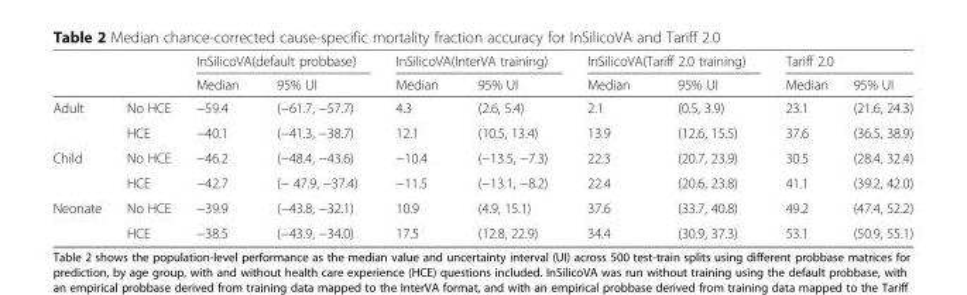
<table><thead><tr><td rowspan="2"></td><td rowspan="2"></td><td colspan="2">InSilicoVA(default probbase)</td><td colspan="2">InSilicoVA(InterVA training)</td><td colspan="2">InSilicoVA(Tariff 2.0 training)</td><td colspan="2">Tariff 2.0</td></tr><tr><td>Median</td><td>95% UI</td><td>Median</td><td>95% UI</td><td>Median</td><td>95% UI</td><td>Median</td><td>95% UI</td></tr></thead><tbody><tr><td rowspan="2">Adult</td><td>No HCE</td><td>−59.4</td><td>(−61.7, −57.7)</td><td>4.3</td><td>(2.6, 5.4)</td><td>2.1</td><td>(0.5, 3.9)</td><td>23.1</td><td>(21.6, 24.3)</td></tr><tr><td>HCE</td><td>−40.1</td><td>(−41.3, −38.7)</td><td>12.1</td><td>(10.5, 13.4)</td><td>13.9</td><td>(12.6, 15.5)</td><td>37.6</td><td>(36.5, 38.9)</td></tr><tr><td rowspan="2">Child</td><td>No HCE</td><td>−46.2</td><td>(−48.4, −43.6)</td><td>−10.4</td><td>(−13.5, −7.3)</td><td>22.3</td><td>(20.7, 23.9)</td><td>30.5</td><td>(28.4, 32.4)</td></tr><tr><td>HCE</td><td>−42.7</td><td>(− 47.9, −37.4)</td><td>−11.5</td><td>(−13.1, −8.2)</td><td>22.4</td><td>(20.6, 23.8)</td><td>41.1</td><td>(39.2, 42.0)</td></tr><tr><td rowspan="2">Neonate</td><td>No HCE</td><td>−39.9</td><td>(−43.8, −32.1)</td><td>10.9</td><td>(4.9, 15.1)</td><td>37.6</td><td>(33.7, 40.8)</td><td>49.2</td><td>(47.4, 52.2)</td></tr><tr><td>HCE</td><td>−38.5</td><td>(−43.9, −34.0)</td><td>17.5</td><td>(12.8, 22.9)</td><td>34.4</td><td>(30.9, 37.3)</td><td>53.1</td><td>(50.9, 55.1)</td></tr></tbody></table>